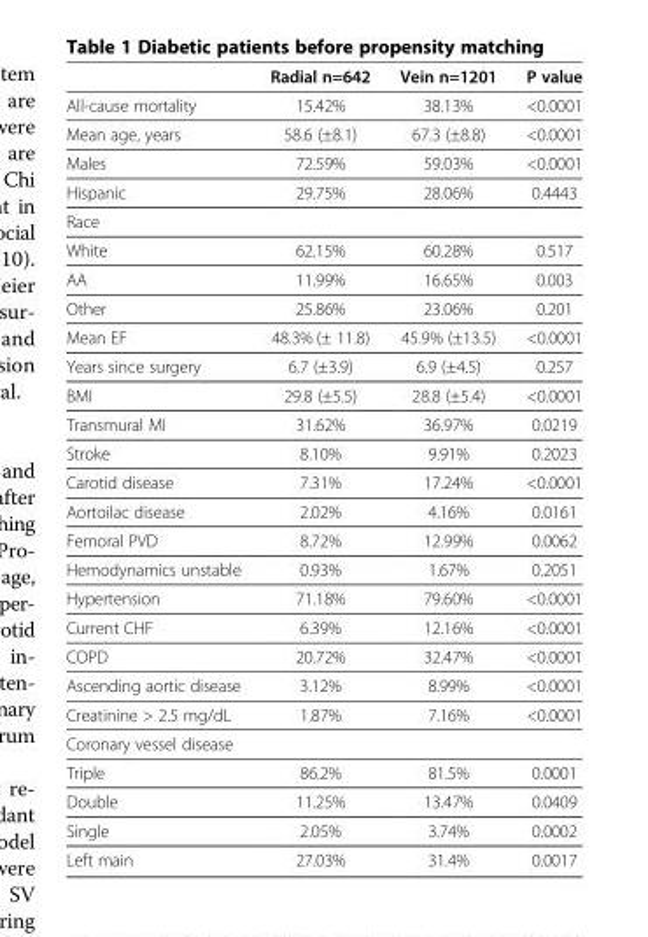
<table><thead><tr><td></td><td>Radial n=642</td><td>Vein n=1201</td><td>P value</td></tr></thead><tbody><tr><td>All-cause mortality</td><td>15.42%</td><td>38.13%</td><td>&lt;0.0001</td></tr><tr><td>Mean age, years</td><td>58.6 (±8.1)</td><td>67.3 (±8.8)</td><td>&lt;0.0001</td></tr><tr><td>Males</td><td>72.59%</td><td>59.03%</td><td>&lt;0.0001</td></tr><tr><td>Hispanic</td><td>29.75%</td><td>28.06%</td><td>0.4443</td></tr><tr><td colspan="4">Race</td></tr><tr><td>White</td><td>62.15%</td><td>60.28%</td><td>0.517</td></tr><tr><td>AA</td><td>11.99%</td><td>16.65%</td><td>0.003</td></tr><tr><td>Other</td><td>25.86%</td><td>23.06%</td><td>0.201</td></tr><tr><td>Mean EF</td><td>48.3% (± 11.8)</td><td>45.9% (±13.5)</td><td>&lt;0.0001</td></tr><tr><td>Years since surgery</td><td>6.7 (±3.9)</td><td>6.9 (±4.5)</td><td>0.257</td></tr><tr><td>BMI</td><td>29.8 (±5.5)</td><td>28.8 (±5.4)</td><td>&lt;0.0001</td></tr><tr><td>Transmural MI</td><td>31.62%</td><td>36.97%</td><td>0.0219</td></tr><tr><td>Stroke</td><td>8.10%</td><td>9.91%</td><td>0.2023</td></tr><tr><td>Carotid disease</td><td>7.31%</td><td>17.24%</td><td>&lt;0.0001</td></tr><tr><td>Aortoilac disease</td><td>2.02%</td><td>4.16%</td><td>0.0161</td></tr><tr><td>Femoral PVD</td><td>8.72%</td><td>12.99%</td><td>0.0062</td></tr><tr><td>Hemodynamics unstable</td><td>0.93%</td><td>1.67%</td><td>0.2051</td></tr><tr><td>Hypertension</td><td>71.18%</td><td>79.60%</td><td>&lt;0.0001</td></tr><tr><td>Current CHF</td><td>6.39%</td><td>12.16%</td><td>&lt;0.0001</td></tr><tr><td>COPD</td><td>20.72%</td><td>32.47%</td><td>&lt;0.0001</td></tr><tr><td>Ascending aortic disease</td><td>3.12%</td><td>8.99%</td><td>&lt;0.0001</td></tr><tr><td>Creatinine &gt; 2.5 mg/dL</td><td>1.87%</td><td>7.16%</td><td>&lt;0.0001</td></tr><tr><td colspan="4">Coronary vessel disease</td></tr><tr><td>Triple</td><td>86.2%</td><td>81.5%</td><td>0.0001</td></tr><tr><td>Double</td><td>11.25%</td><td>13.47%</td><td>0.0409</td></tr><tr><td>Single</td><td>2.05%</td><td>3.74%</td><td>0.0002</td></tr><tr><td>Left main</td><td>27.03%</td><td>31.4%</td><td>0.0017</td></tr></tbody></table>